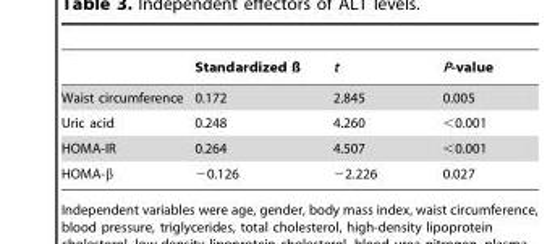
<table><thead><tr><td></td><td>Standardized ß</td><td>t</td><td>P-value</td></tr></thead><tbody><tr><td>Waist circumference</td><td>0.172</td><td>2.845</td><td>0.005</td></tr><tr><td>Uric acid</td><td>0.248</td><td>4.260</td><td>&lt;0.001</td></tr><tr><td>HOMA-IR</td><td>0.264</td><td>4.507</td><td>&lt;0.001</td></tr><tr><td>HOMA-β</td><td>−0.126</td><td>−2.226</td><td>0.027</td></tr></tbody></table>